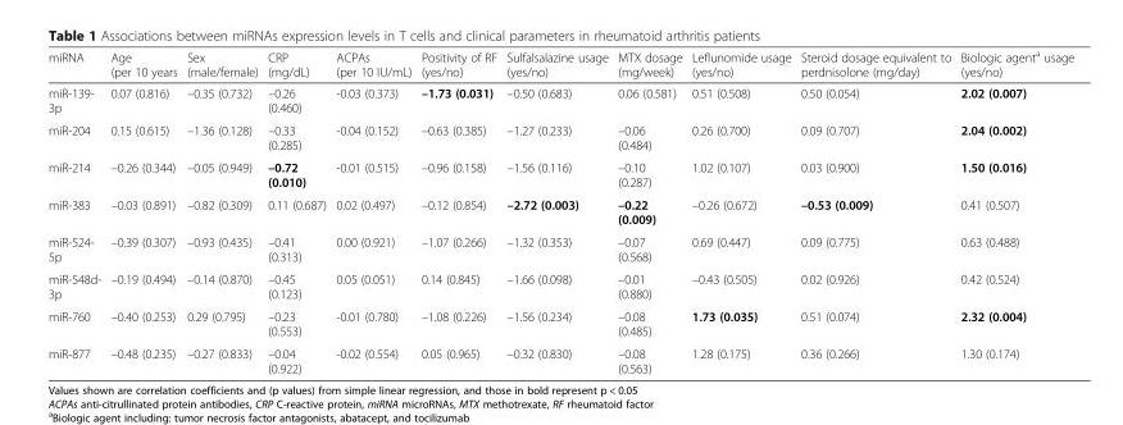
<table><thead><tr><td>miRNA</td><td>Age (per 10 years</td><td>Sex (male/female)</td><td>CRP (mg/dL)</td><td>ACPAs (per 10 IU/mL)</td><td>Positivity of RF (yes/no)</td><td>Sulfalsalazine usage (yes/no)</td><td>MTX dosage (mg/week)</td><td>Leflunomide usage (yes/no)</td><td>Steroid dosage equivalent to perdnisolone (mg/day)</td><td>Biologic agent<sup>a</sup> usage (yes/no)</td></tr></thead><tbody><tr><td>miR-139- 3p</td><td>0.07 (0.816)</td><td>–0.35 (0.732)</td><td>–0.26 (0.460)</td><td>-0.03 (0.373)</td><td>–1.73 (0.031)</td><td>–0.50 (0.683)</td><td>0.06 (0.581)</td><td>0.51 (0.508)</td><td>0.50 (0.054)</td><td>2.02 (0.007)</td></tr><tr><td>miR-204</td><td>0.15 (0.615)</td><td>–1.36 (0.128)</td><td>–0.33 (0.285)</td><td>-0.04 (0.152)</td><td>–0.63 (0.385)</td><td>–1.27 (0.233)</td><td>–0.06 (0.484)</td><td>0.26 (0.700)</td><td>0.09 (0.707)</td><td>2.04 (0.002)</td></tr><tr><td>miR-214</td><td>–0.26 (0.344)</td><td>–0.05 (0.949)</td><td>–0.72 (0.010)</td><td>-0.01 (0.515)</td><td>–0.96 (0.158)</td><td>–1.56 (0.116)</td><td>–0.10 (0.287)</td><td>1.02 (0.107)</td><td>0.03 (0.900)</td><td>1.50 (0.016)</td></tr><tr><td>miR-383</td><td>–0.03 (0.891)</td><td>–0.82 (0.309)</td><td>0.11 (0.687)</td><td>0.02 (0.497)</td><td>–0.12 (0.854)</td><td>–2.72 (0.003)</td><td>–0.22 (0.009)</td><td>–0.26 (0.672)</td><td>–0.53 (0.009)</td><td>0.41 (0.507)</td></tr><tr><td>miR-524- 5p</td><td>–0.39 (0.307)</td><td>–0.93 (0.435)</td><td>–0.41 (0.313)</td><td>0.00 (0.921)</td><td>–1.07 (0.266)</td><td>–1.32 (0.353)</td><td>–0.07 (0.568)</td><td>0.69 (0.447)</td><td>0.09 (0.775)</td><td>0.63 (0.488)</td></tr><tr><td>miR-548d- 3p</td><td>–0.19 (0.494)</td><td>–0.14 (0.870)</td><td>–0.45 (0.123)</td><td>0.05 (0.051)</td><td>0.14 (0.845)</td><td>–1.66 (0.098)</td><td>–0.01 (0.880)</td><td>–0.43 (0.505)</td><td>0.02 (0.926)</td><td>0.42 (0.524)</td></tr><tr><td>miR-760</td><td>–0.40 (0.253)</td><td>0.29 (0.795)</td><td>–0.23 (0.553)</td><td>-0.01 (0.780)</td><td>–1.08 (0.226)</td><td>–1.56 (0.234)</td><td>–0.08 (0.485)</td><td>1.73 (0.035)</td><td>0.51 (0.074)</td><td>2.32 (0.004)</td></tr><tr><td>miR-877</td><td>–0.48 (0.235)</td><td>–0.27 (0.833)</td><td>–0.04 (0.922)</td><td>-0.02 (0.554)</td><td>0.05 (0.965)</td><td>–0.32 (0.830)</td><td>–0.08 (0.563)</td><td>1.28 (0.175)</td><td>0.36 (0.266)</td><td>1.30 (0.174)</td></tr></tbody></table>